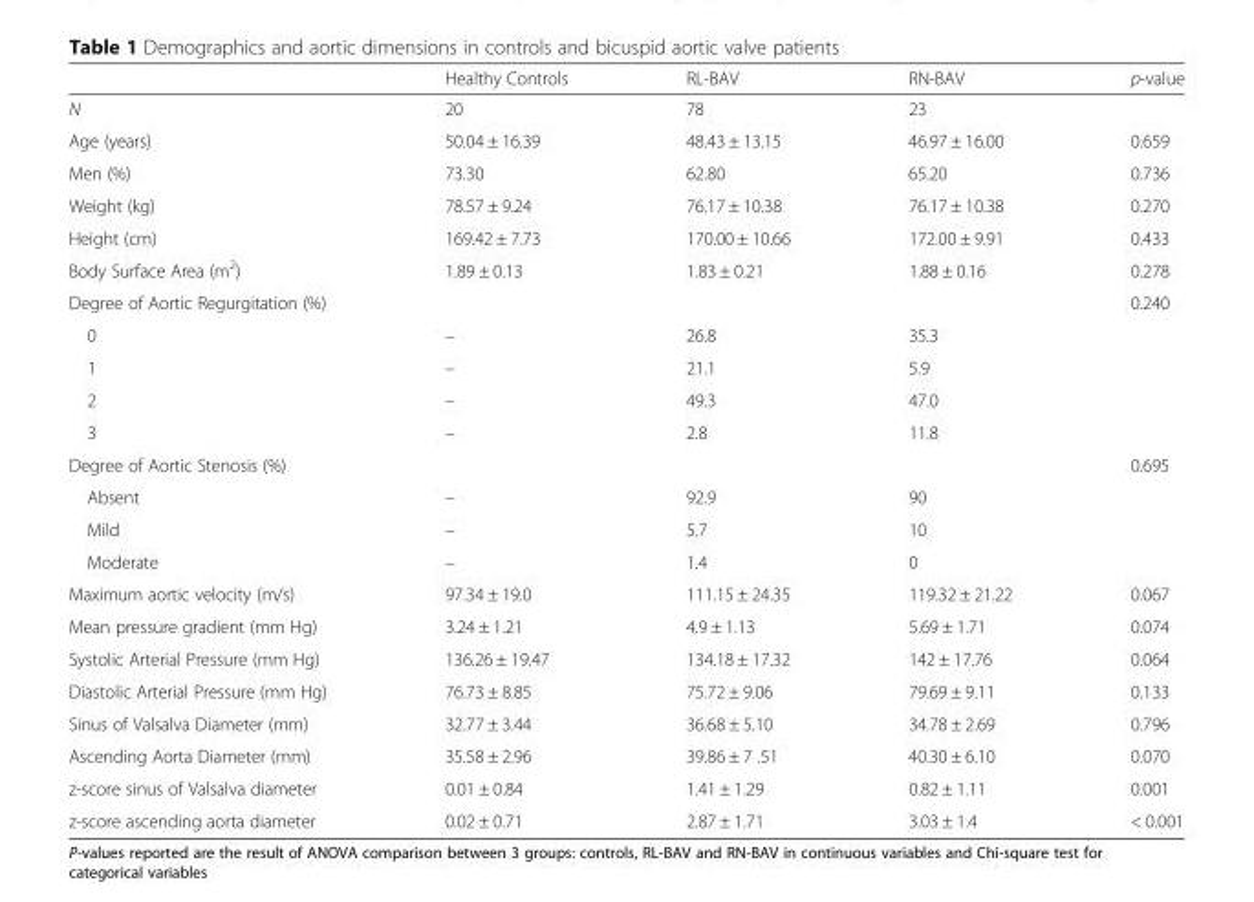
<table><thead><tr><td></td><td>Healthy Controls</td><td>RL-BAV</td><td>RN-BAV</td><td>p-value</td></tr></thead><tbody><tr><td>N</td><td>20</td><td>78</td><td>23</td><td></td></tr><tr><td>Age (years)</td><td>50.04 ± 16.39</td><td>48.43 ± 13.15</td><td>46.97 ± 16.00</td><td>0.659</td></tr><tr><td>Men (%)</td><td>73.30</td><td>62.80</td><td>65.20</td><td>0.736</td></tr><tr><td>Weight (kg)</td><td>78.57 ± 9.24</td><td>76.17 ± 10.38</td><td>76.17 ± 10.38</td><td>0.270</td></tr><tr><td>Height (cm)</td><td>169.42 ± 7.73</td><td>170.00 ± 10.66</td><td>172.00 ± 9.91</td><td>0.433</td></tr><tr><td>Body Surface Area (m<sup>2</sup>)</td><td>1.89 ± 0.13</td><td>1.83 ± 0.21</td><td>1.88 ± 0.16</td><td>0.278</td></tr><tr><td>Degree of Aortic Regurgitation (%)</td><td></td><td></td><td></td><td>0.240</td></tr><tr><td>0</td><td>–</td><td>26.8</td><td>35.3</td><td></td></tr><tr><td>1</td><td>–</td><td>21.1</td><td>5.9</td><td></td></tr><tr><td>2</td><td>–</td><td>49.3</td><td>47.0</td><td></td></tr><tr><td>3</td><td>–</td><td>2.8</td><td>11.8</td><td></td></tr><tr><td>Degree of Aortic Stenosis (%)</td><td></td><td></td><td></td><td>0.695</td></tr><tr><td>Absent</td><td>–</td><td>92.9</td><td>90</td><td></td></tr><tr><td>Mild</td><td>–</td><td>5.7</td><td>10</td><td></td></tr><tr><td>Moderate</td><td>–</td><td>1.4</td><td>0</td><td></td></tr><tr><td>Maximum aortic velocity (m/s)</td><td>97.34 ± 19.0</td><td>111.15 ± 24.35</td><td>119.32 ± 21.22</td><td>0.067</td></tr><tr><td>Mean pressure gradient (mm Hg)</td><td>3.24 ± 1.21</td><td>4.9 ± 1.13</td><td>5.69 ± 1.71</td><td>0.074</td></tr><tr><td>Systolic Arterial Pressure (mm Hg)</td><td>136.26 ± 19.47</td><td>134.18 ± 17.32</td><td>142 ± 17.76</td><td>0.064</td></tr><tr><td>Diastolic Arterial Pressure (mm Hg)</td><td>76.73 ± 8.85</td><td>75.72 ± 9.06</td><td>79.69 ± 9.11</td><td>0.133</td></tr><tr><td>Sinus of Valsalva Diameter (mm)</td><td>32.77 ± 3.44</td><td>36.68 ± 5.10</td><td>34.78 ± 2.69</td><td>0.796</td></tr><tr><td>Ascending Aorta Diameter (mm)</td><td>35.58 ± 2.96</td><td>39.86 ± 7 .51</td><td>40.30 ± 6.10</td><td>0.070</td></tr><tr><td>z-score sinus of Valsalva diameter</td><td>0.01 ± 0.84</td><td>1.41 ± 1.29</td><td>0.82 ± 1.11</td><td>0.001</td></tr><tr><td>z-score ascending aorta diameter</td><td>0.02 ± 0.71</td><td>2.87 ± 1.71</td><td>3.03 ± 1.4</td><td>&lt; 0.001</td></tr></tbody></table>